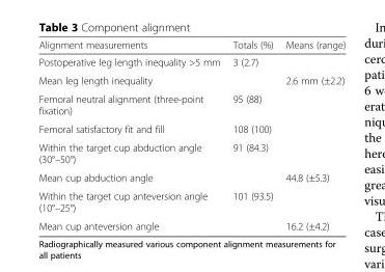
<table><thead><tr><td>Alignment measurements</td><td>Totals (%)</td><td>Means (range)</td></tr></thead><tbody><tr><td>Postoperative leg length inequality &gt;5 mm</td><td>3 (2.7)</td><td></td></tr><tr><td>Mean leg length inequality</td><td></td><td>2.6 mm (±2.2)</td></tr><tr><td>Femoral neutral alignment (three-point fixation)</td><td>95 (88)</td><td></td></tr><tr><td>Femoral satisfactory fit and fill</td><td>108 (100)</td><td></td></tr><tr><td>Within the target cup abduction angle (30°–50°)</td><td>91 (84.3)</td><td></td></tr><tr><td>Mean cup abduction angle</td><td></td><td>44.8 (±5.3)</td></tr><tr><td>Within the target cup anteversion angle (10°–25°)</td><td>101 (93.5)</td><td></td></tr><tr><td>Mean cup anteversion angle</td><td></td><td>16.2 (±4.2)</td></tr></tbody></table>